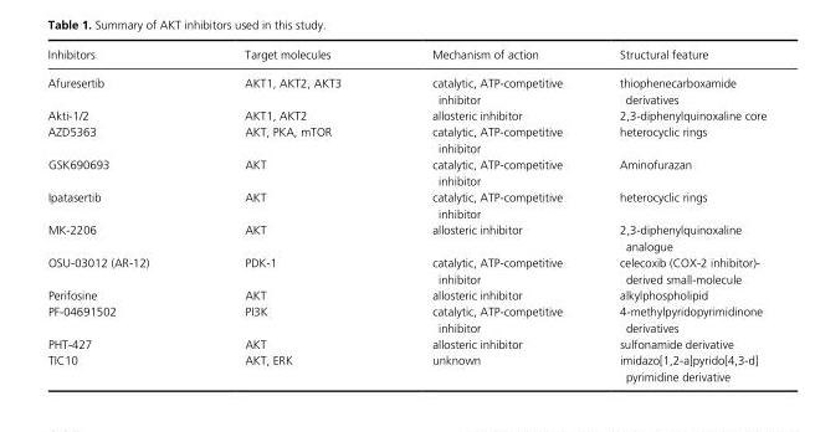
<table><thead><tr><td>Inhibitors</td><td>Target molecules</td><td>Mechanism of action</td><td>Structural feature</td></tr></thead><tbody><tr><td>Afuresertib</td><td>AKT1, AKT2, AKT3</td><td>catalytic, ATP- competitive inhibitor</td><td>thiophenecarboxamide derivatives</td></tr><tr><td>Akti- 1/2</td><td>AKT1, AKT2</td><td>allosteric inhibitor</td><td>2,3- diphenylquinoxaline core</td></tr><tr><td>AZD5363</td><td>AKT, PKA, mTOR</td><td>catalytic, ATP- competitive inhibitor</td><td>heterocyclic rings</td></tr><tr><td>GSK690693</td><td>AKT</td><td>catalytic, ATP- competitive inhibitor</td><td>Aminofurazan</td></tr><tr><td>Ipatasertib</td><td>AKT</td><td>catalytic, ATP- competitive inhibitor</td><td>heterocyclic rings</td></tr><tr><td>MK- 2206</td><td>AKT</td><td>allosteric inhibitor</td><td>2,3-diphenylquinoxaline analogue</td></tr><tr><td>OSU- 03012 (AR- 12)</td><td>PDK- 1</td><td>catalytic, ATP- competitive inhibitor</td><td>celecoxib (COX- 2 inhibitor)- derived small- molecule</td></tr><tr><td>Perifosine</td><td>AKT</td><td>allosteric inhibitor</td><td>alkylphospholipid</td></tr><tr><td>PF- 04691502</td><td>PI3K</td><td>catalytic, ATP- competitive inhibitor</td><td>4- methylpyridopyrimidinone derivatives</td></tr><tr><td>PHT- 427</td><td>AKT</td><td>allosteric inhibitor</td><td>sulfonamide derivative</td></tr><tr><td>TIC10</td><td>AKT, ERK</td><td>unknown</td><td>imidazo[1,2- a]pyrido[4,3- d] pyrimidine derivative</td></tr></tbody></table>